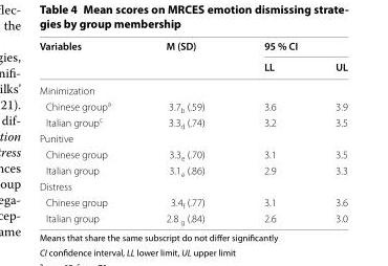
<table><thead><tr><td rowspan="2">Variables</td><td rowspan="2">M (SD)</td><td colspan="2">95 % CI</td></tr><tr><td>LL</td><td>UL</td></tr></thead><tbody><tr><td colspan="4">Minimization</td></tr><tr><td>Chinese group<sup>a</sup></td><td>3.7<sub>b</sub> (.59)</td><td>3.6</td><td>3.9</td></tr><tr><td>Italian group<sup>c</sup></td><td>3.3<sub>d</sub> (.74)</td><td>3.2</td><td>3.5</td></tr><tr><td colspan="4">Punitive</td></tr><tr><td>Chinese group</td><td>3.3<sub>e</sub> (.70)</td><td>3.1</td><td>3.5</td></tr><tr><td>Italian group</td><td>3.1<sub>e</sub> (.86)</td><td>2.9</td><td>3.3</td></tr><tr><td colspan="4">Distress</td></tr><tr><td>Chinese group</td><td>3.4<sub>f</sub> (.77)</td><td>3.1</td><td>3.6</td></tr><tr><td>Italian group</td><td>2.8 <sub>g</sub> (.84)</td><td>2.6</td><td>3.0</td></tr></tbody></table>